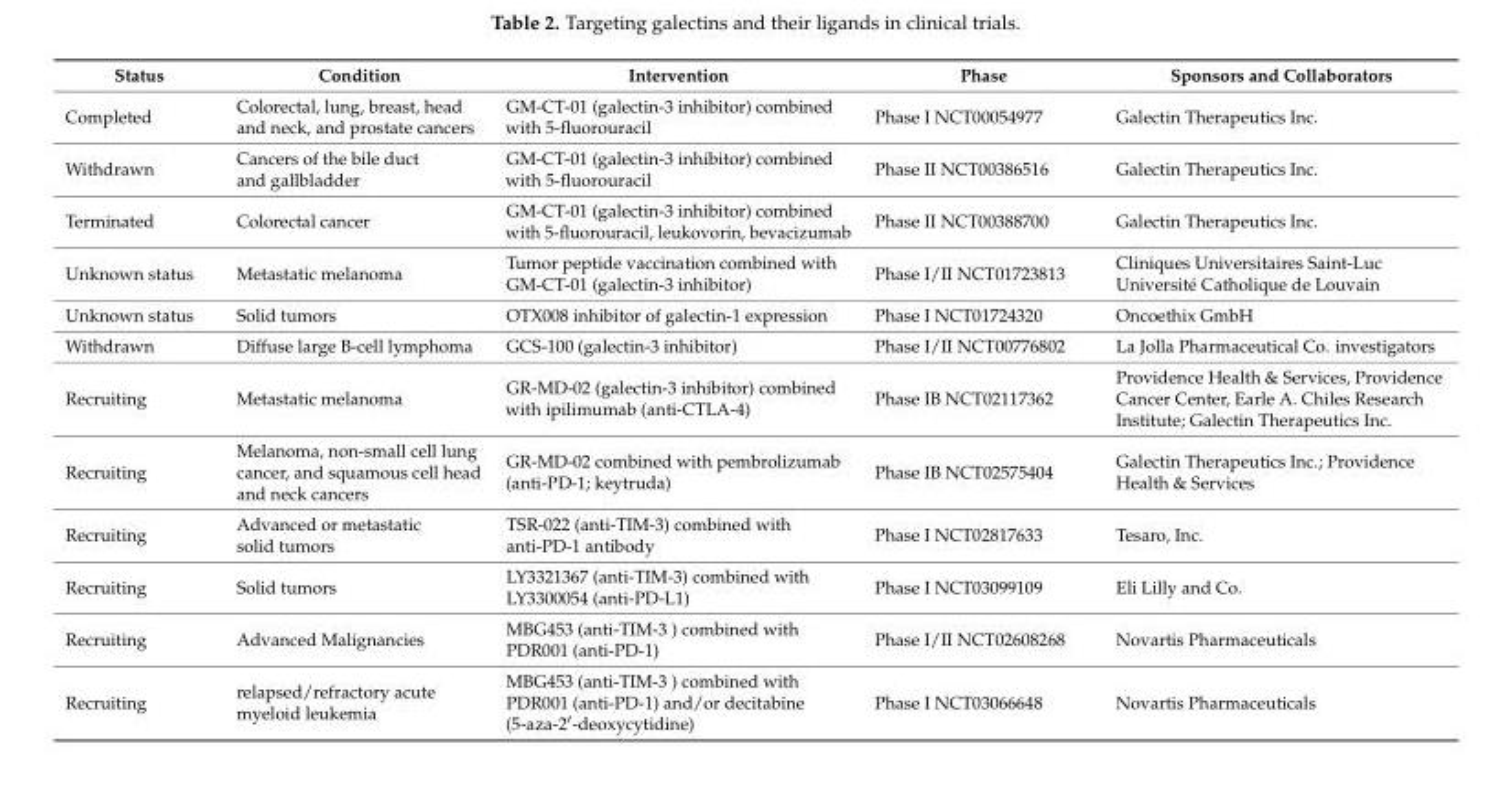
<table><thead><tr><td>Status</td><td>Condition</td><td>Intervention</td><td>Phase</td><td>Sponsors and Collaborators</td></tr></thead><tbody><tr><td>Completed</td><td>Colorectal, lung, breast, head and neck, and prostate cancers</td><td>GM-CT-01 (galectin-3 inhibitor) combined with 5-fluorouracil</td><td>Phase I NCT00054977</td><td>Galectin Therapeutics Inc.</td></tr><tr><td>Withdrawn</td><td>Cancers of the bile duct and gallbladder</td><td>GM-CT-01 (galectin-3 inhibitor) combined with 5-fluorouracil</td><td>Phase II NCT00386516</td><td>Galectin Therapeutics Inc.</td></tr><tr><td>Terminated</td><td>Colorectal cancer</td><td>GM-CT-01 (galectin-3 inhibitor) combined with 5-fluorouracil, leukovorin, bevacizumab</td><td>Phase II NCT00388700</td><td>Galectin Therapeutics Inc.</td></tr><tr><td>Unknown status</td><td>Metastatic melanoma</td><td>Tumor peptide vaccination combined with GM-CT-01 (galectin-3 inhibitor)</td><td>Phase I/II NCT01723813</td><td>Cliniques Universitaires Saint-Luc Université Catholique de Louvain</td></tr><tr><td>Unknown status</td><td>Solid tumors</td><td>OTX008 inhibitor of galectin-1 expression</td><td>Phase I NCT01724320</td><td>Oncoethix GmbH</td></tr><tr><td>Withdrawn</td><td>Diffuse large B-cell lymphoma</td><td>GCS-100 (galectin-3 inhibitor)</td><td>Phase I/II NCT00776802</td><td>La Jolla Pharmaceutical Co. investigators</td></tr><tr><td>Recruiting</td><td>Metastatic melanoma</td><td>GR-MD-02 (galectin-3 inhibitor) combined with ipilimumab (anti-CTLA-4)</td><td>Phase IB NCT02117362</td><td>Providence Health &amp; Services, Providence Cancer Center, Earle A. Chiles Research Institute; Galectin Therapeutics Inc.</td></tr><tr><td>Recruiting</td><td>Melanoma, non-small cell lung cancer, and squamous cell head and neck cancers</td><td>GR-MD-02 combined with pembrolizumab (anti-PD-1; keytruda)</td><td>Phase IB NCT02575404</td><td>Galectin Therapeutics Inc.; Providence Health &amp; Services</td></tr><tr><td>Recruiting</td><td>Advanced or metastatic solid tumors</td><td>TSR-022 (anti-TIM-3) combined with anti-PD-1 antibody</td><td>Phase I NCT02817633</td><td>Tesaro, Inc.</td></tr><tr><td>Recruiting</td><td>Solid tumors</td><td>LY3321367 (anti-TIM-3) combined with LY3300054 (anti-PD-L1)</td><td>Phase I NCT03099109</td><td>Eli Lilly and Co.</td></tr><tr><td>Recruiting</td><td>Advanced Malignancies</td><td>MBG453 (anti-TIM-3 ) combined with PDR001 (anti-PD-1)</td><td>Phase I/II NCT02608268</td><td>Novartis Pharmaceuticals</td></tr><tr><td>Recruiting</td><td>relapsed/refractory acute myeloid leukemia</td><td>MBG453 (anti-TIM-3 ) combined with PDR001 (anti-PD-1) and/or decitabine (5-aza-2′-deoxycytidine)</td><td>Phase I NCT03066648</td><td>Novartis Pharmaceuticals</td></tr></tbody></table>